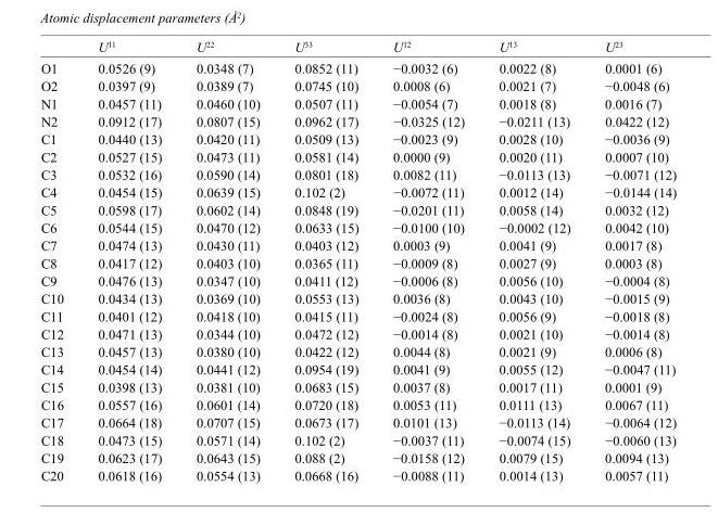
<table><thead><tr><td></td><td>U<sup>11</sup></td><td>U<sup>22</sup></td><td>U<sup>33</sup></td><td>U<sup>12</sup></td><td>U<sup>13</sup></td><td>U<sup>23</sup></td></tr></thead><tbody><tr><td>O1</td><td>0.0526 (9)</td><td>0.0348 (7)</td><td>0.0852 (11)</td><td>−0.0032 (6)</td><td>0.0022 (8)</td><td>0.0001 (6)</td></tr><tr><td>O2</td><td>0.0397 (9)</td><td>0.0389 (7)</td><td>0.0745 (10)</td><td>0.0008 (6)</td><td>0.0021 (7)</td><td>−0.0048 (6)</td></tr><tr><td>N1</td><td>0.0457 (11)</td><td>0.0460 (10)</td><td>0.0507 (11)</td><td>−0.0054 (7)</td><td>0.0018 (8)</td><td>0.0016 (7)</td></tr><tr><td>N2</td><td>0.0912 (17)</td><td>0.0807 (15)</td><td>0.0962 (17)</td><td>−0.0325 (12)</td><td>−0.0211 (13)</td><td>0.0422 (12)</td></tr><tr><td>C1</td><td>0.0440 (13)</td><td>0.0420 (11)</td><td>0.0509 (13)</td><td>−0.0023 (9)</td><td>0.0028 (10)</td><td>−0.0036 (9)</td></tr><tr><td>C2</td><td>0.0527 (15)</td><td>0.0473 (11)</td><td>0.0581 (14)</td><td>0.0000 (9)</td><td>0.0020 (11)</td><td>0.0007 (10)</td></tr><tr><td>C3</td><td>0.0532 (16)</td><td>0.0590 (14)</td><td>0.0801 (18)</td><td>0.0082 (11)</td><td>−0.0113 (13)</td><td>−0.0071 (12)</td></tr><tr><td>C4</td><td>0.0454 (15)</td><td>0.0639 (15)</td><td>0.102 (2)</td><td>−0.0072 (11)</td><td>0.0012 (14)</td><td>−0.0144 (14)</td></tr><tr><td>C5</td><td>0.0598 (17)</td><td>0.0602 (14)</td><td>0.0848 (19)</td><td>−0.0201 (11)</td><td>0.0058 (14)</td><td>0.0032 (12)</td></tr><tr><td>C6</td><td>0.0544 (15)</td><td>0.0470 (12)</td><td>0.0633 (15)</td><td>−0.0100 (10)</td><td>−0.0002 (12)</td><td>0.0042 (10)</td></tr><tr><td>C7</td><td>0.0474 (13)</td><td>0.0430 (11)</td><td>0.0403 (12)</td><td>0.0003 (9)</td><td>0.0041 (9)</td><td>0.0017 (8)</td></tr><tr><td>C8</td><td>0.0417 (12)</td><td>0.0403 (10)</td><td>0.0365 (11)</td><td>−0.0009 (8)</td><td>0.0027 (9)</td><td>0.0003 (8)</td></tr><tr><td>C9</td><td>0.0476 (13)</td><td>0.0347 (10)</td><td>0.0411 (12)</td><td>−0.0006 (8)</td><td>0.0056 (10)</td><td>−0.0004 (8)</td></tr><tr><td>C10</td><td>0.0434 (13)</td><td>0.0369 (10)</td><td>0.0553 (13)</td><td>0.0036 (8)</td><td>0.0043 (10)</td><td>−0.0015 (9)</td></tr><tr><td>C11</td><td>0.0401 (12)</td><td>0.0418 (10)</td><td>0.0415 (11)</td><td>−0.0024 (8)</td><td>0.0056 (9)</td><td>−0.0018 (8)</td></tr><tr><td>C12</td><td>0.0471 (13)</td><td>0.0344 (10)</td><td>0.0472 (12)</td><td>−0.0014 (8)</td><td>0.0021 (10)</td><td>−0.0014 (8)</td></tr><tr><td>C13</td><td>0.0457 (13)</td><td>0.0380 (10)</td><td>0.0422 (12)</td><td>0.0044 (8)</td><td>0.0021 (9)</td><td>0.0006 (8)</td></tr><tr><td>C14</td><td>0.0454 (14)</td><td>0.0441 (12)</td><td>0.0954 (19)</td><td>0.0041 (9)</td><td>0.0055 (12)</td><td>−0.0047 (11)</td></tr><tr><td>C15</td><td>0.0398 (13)</td><td>0.0381 (10)</td><td>0.0683 (15)</td><td>0.0037 (8)</td><td>0.0017 (11)</td><td>0.0001 (9)</td></tr><tr><td>C16</td><td>0.0557 (16)</td><td>0.0601 (14)</td><td>0.0720 (18)</td><td>0.0053 (11)</td><td>0.0111 (13)</td><td>0.0067 (11)</td></tr><tr><td>C17</td><td>0.0664 (18)</td><td>0.0707 (15)</td><td>0.0673 (17)</td><td>0.0101 (13)</td><td>−0.0113 (14)</td><td>−0.0064 (12)</td></tr><tr><td>C18</td><td>0.0473 (15)</td><td>0.0571 (14)</td><td>0.102 (2)</td><td>−0.0037 (11)</td><td>−0.0074 (15)</td><td>−0.0060 (13)</td></tr><tr><td>C19</td><td>0.0623 (17)</td><td>0.0643 (15)</td><td>0.088 (2)</td><td>−0.0158 (12)</td><td>0.0079 (15)</td><td>0.0094 (13)</td></tr><tr><td>C20</td><td>0.0618 (16)</td><td>0.0554 (13)</td><td>0.0668 (16)</td><td>−0.0088 (11)</td><td>0.0014 (13)</td><td>0.0057 (11)</td></tr></tbody></table>